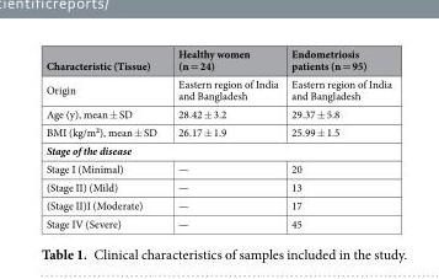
<table><thead><tr><td>Characteristic (Tissue)</td><td>Healthy women (n = 24)</td><td>Endometriosis patients (n = 95)</td></tr></thead><tbody><tr><td>Origin</td><td>Eastern region of India and Bangladesh</td><td>Eastern region of India and Bangladesh</td></tr><tr><td>Age (y), mean ± SD</td><td>28.42 ± 3.2</td><td>29.37 ± 5.8</td></tr><tr><td>BMI (kg/m<sup>2</sup>), mean ± SD</td><td>26.17 ± 1.9</td><td>25.99 ± 1.5</td></tr><tr><td colspan="3">Stage of the disease</td></tr><tr><td>Stage I (Minimal)</td><td>—</td><td>20</td></tr><tr><td>(Stage II) (Mild)</td><td>—</td><td>13</td></tr><tr><td>(Stage II)I (Moderate)</td><td>—</td><td>17</td></tr><tr><td>Stage IV (Severe)</td><td>—</td><td>45</td></tr></tbody></table>